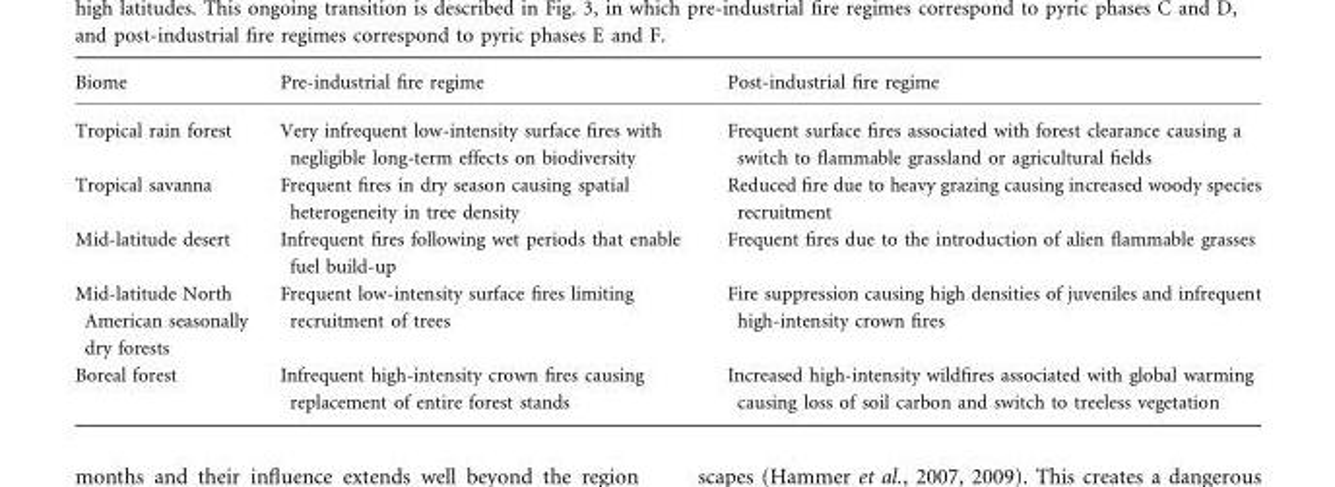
<table><thead><tr><td>Biome</td><td>Pre-industrial fire regime</td><td>Post-industrial fire regime</td></tr></thead><tbody><tr><td>Tropical rain forest</td><td>Very infrequent low-intensity surface fires with negligible long-term effects on biodiversity</td><td>Frequent surface fires associated with forest clearance causing a switch to flammable grassland or agricultural fields</td></tr><tr><td>Tropical savanna</td><td>Frequent fires in dry season causing spatial heterogeneity in tree density</td><td>Reduced fire due to heavy grazing causing increased woody species recruitment</td></tr><tr><td>Mid-latitude desert</td><td>Infrequent fires following wet periods that enable fuel build-up</td><td>Frequent fires due to the introduction of alien flammable grasses</td></tr><tr><td>Mid-latitude North American seasonally dry forests</td><td>Frequent low-intensity surface fires limiting recruitment of trees</td><td>Fire suppression causing high densities of juveniles and infrequent high-intensity crown fires</td></tr><tr><td>Boreal forest</td><td>Infrequent high-intensity crown fires causing replacement of entire forest stands</td><td>Increased high-intensity wildfires associated with global warming causing loss of soil carbon and switch to treeless vegetation</td></tr></tbody></table>